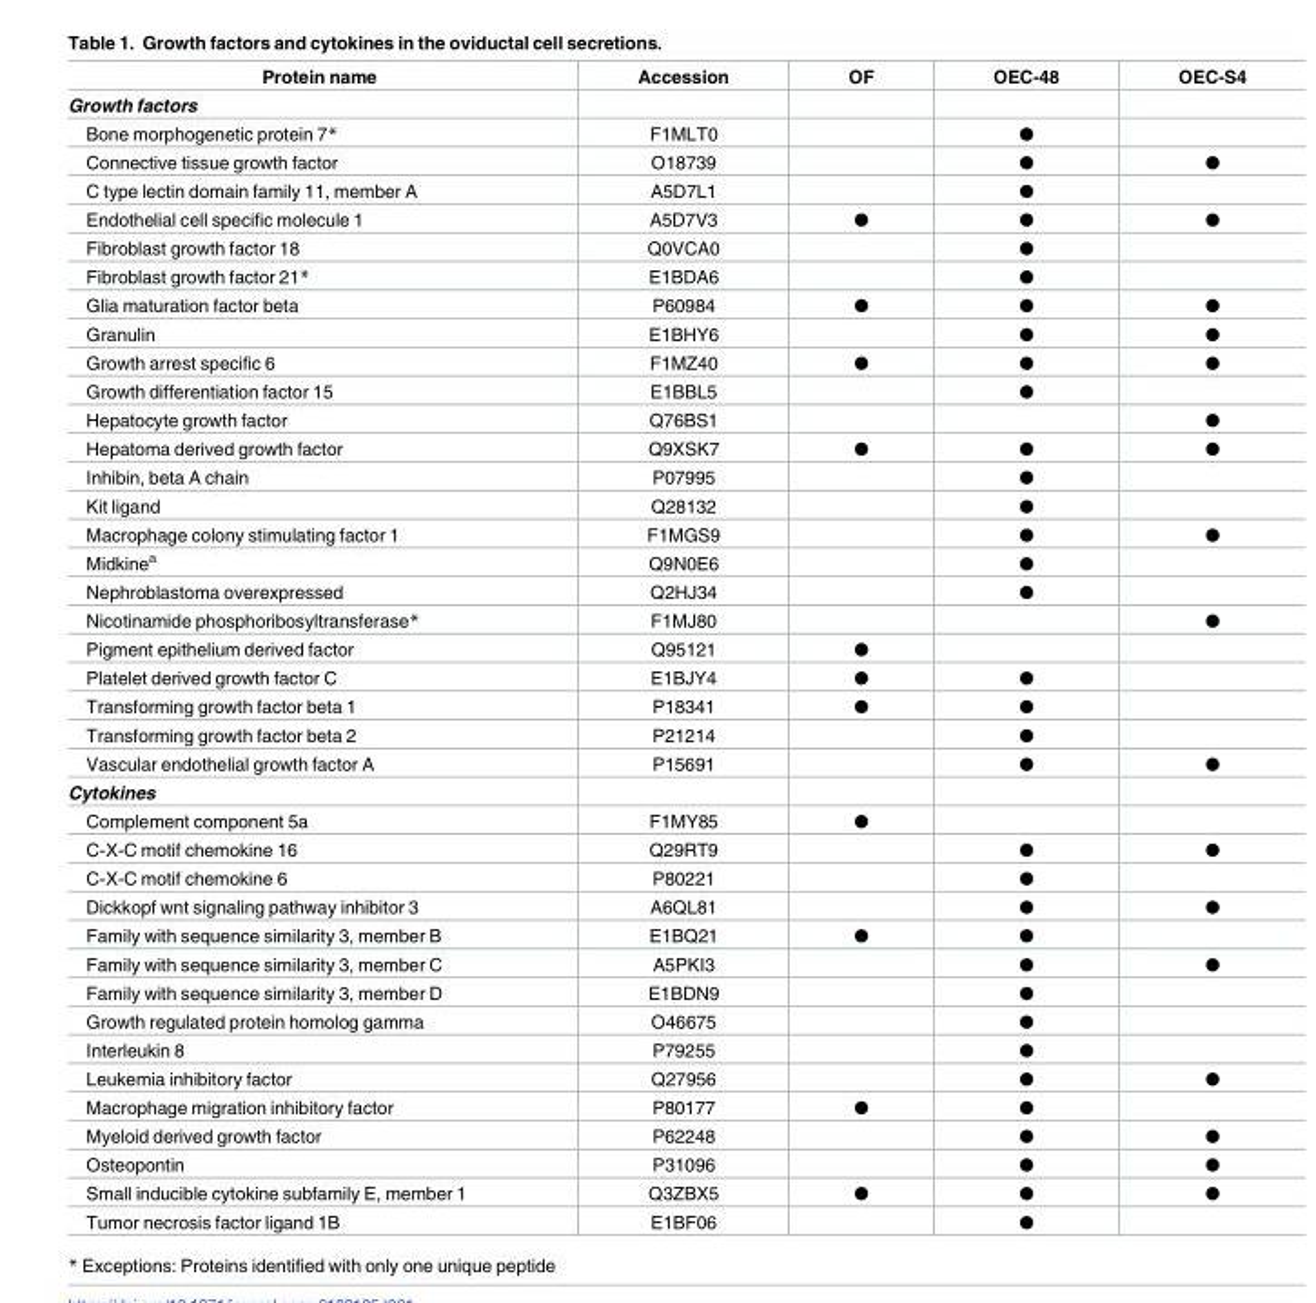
<table><thead><tr><td>Protein name</td><td>Accession</td><td>OF</td><td>OEC-48</td><td>OEC-S4</td></tr></thead><tbody><tr><td colspan="5">Growth factors</td></tr><tr><td>Bone morphogenetic protein 7*</td><td>F1MLT0</td><td></td><td>●</td><td></td></tr><tr><td>Connective tissue growth factor</td><td>O18739</td><td></td><td>●</td><td>●</td></tr><tr><td>C type lectin domain family 11, member A</td><td>A5D7L1</td><td></td><td>●</td><td></td></tr><tr><td>Endothelial cell specific molecule 1</td><td>A5D7V3</td><td>●</td><td>●</td><td>●</td></tr><tr><td>Fibroblast growth factor 18</td><td>Q0VCA0</td><td></td><td>●</td><td></td></tr><tr><td>Fibroblast growth factor 21*</td><td>E1BDA6</td><td></td><td>●</td><td></td></tr><tr><td>Glia maturation factor beta</td><td>P60984</td><td>●</td><td>●</td><td>●</td></tr><tr><td>Granulin</td><td>E1BHY6</td><td></td><td>●</td><td>●</td></tr><tr><td>Growth arrest specific 6</td><td>F1MZ40</td><td>●</td><td>●</td><td>●</td></tr><tr><td>Growth differentiation factor 15</td><td>E1BBL5</td><td></td><td>●</td><td></td></tr><tr><td>Hepatocyte growth factor</td><td>Q76BS1</td><td></td><td></td><td>●</td></tr><tr><td>Hepatoma derived growth factor</td><td>Q9XSK7</td><td>●</td><td>●</td><td>●</td></tr><tr><td>Inhibin, beta A chain</td><td>P07995</td><td></td><td>●</td><td></td></tr><tr><td>Kit ligand</td><td>Q28132</td><td></td><td>●</td><td></td></tr><tr><td>Macrophage colony stimulating factor 1</td><td>F1MGS9</td><td></td><td>●</td><td>●</td></tr><tr><td>Midkine<sup>a</sup></td><td>Q9N0E6</td><td></td><td>●</td><td></td></tr><tr><td>Nephroblastoma overexpressed</td><td>Q2HJ34</td><td></td><td>●</td><td></td></tr><tr><td>Nicotinamide phosphoribosyltransferase*</td><td>F1MJ80</td><td></td><td></td><td>●</td></tr><tr><td>Pigment epithelium derived factor</td><td>Q95121</td><td>●</td><td></td><td></td></tr><tr><td>Platelet derived growth factor C</td><td>E1BJY4</td><td>●</td><td>●</td><td></td></tr><tr><td>Transforming growth factor beta 1</td><td>P18341</td><td>●</td><td>●</td><td></td></tr><tr><td>Transforming growth factor beta 2</td><td>P21214</td><td></td><td>●</td><td></td></tr><tr><td>Vascular endothelial growth factor A</td><td>P15691</td><td></td><td>●</td><td>●</td></tr><tr><td colspan="5">Cytokines</td></tr><tr><td>Complement component 5a</td><td>F1MY85</td><td>●</td><td></td><td></td></tr><tr><td>C-X-C motif chemokine 16</td><td>Q29RT9</td><td></td><td>●</td><td>●</td></tr><tr><td>C-X-C motif chemokine 6</td><td>P80221</td><td></td><td>●</td><td></td></tr><tr><td>Dickkopf wnt signaling pathway inhibitor 3</td><td>A6QL81</td><td></td><td>●</td><td>●</td></tr><tr><td>Family with sequence similarity 3, member B</td><td>E1BQ21</td><td>●</td><td>●</td><td></td></tr><tr><td>Family with sequence similarity 3, member C</td><td>A5PKI3</td><td></td><td>●</td><td>●</td></tr><tr><td>Family with sequence similarity 3, member D</td><td>E1BDN9</td><td></td><td>●</td><td></td></tr><tr><td>Growth regulated protein homolog gamma</td><td>O46675</td><td></td><td>●</td><td></td></tr><tr><td>Interleukin 8</td><td>P79255</td><td></td><td>●</td><td></td></tr><tr><td>Leukemia inhibitory factor</td><td>Q27956</td><td></td><td>●</td><td>●</td></tr><tr><td>Macrophage migration inhibitory factor</td><td>P80177</td><td>●</td><td>●</td><td></td></tr><tr><td>Myeloid derived growth factor</td><td>P62248</td><td></td><td>●</td><td>●</td></tr><tr><td>Osteopontin</td><td>P31096</td><td></td><td>●</td><td>●</td></tr><tr><td>Small inducible cytokine subfamily E, member 1</td><td>Q3ZBX5</td><td>●</td><td>●</td><td>●</td></tr><tr><td>Tumor necrosis factor ligand 1B</td><td>E1BF06</td><td></td><td>●</td><td></td></tr></tbody></table>